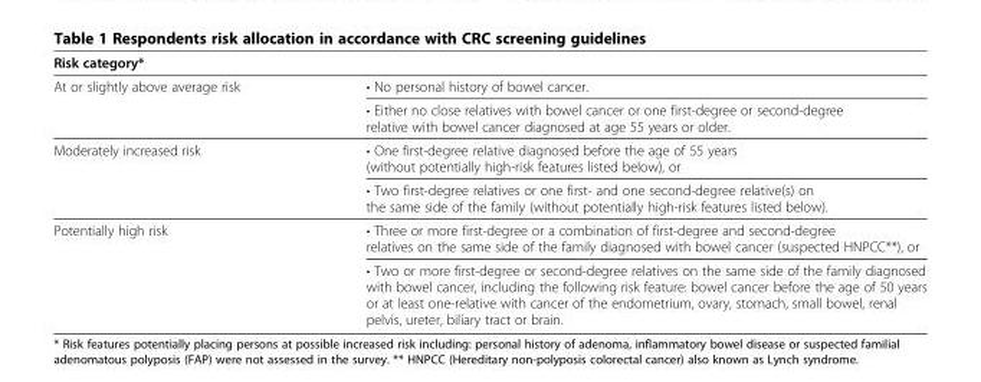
<table><thead><tr><td>Risk category*</td><td></td></tr></thead><tbody><tr><td rowspan="2">At or slightly above average risk</td><td>• No personal history of bowel cancer.</td></tr><tr><td>• Either no close relatives with bowel cancer or one first-degree or second-degree relative with bowel cancer diagnosed at age 55 years or older.</td></tr><tr><td rowspan="2">Moderately increased risk</td><td>• One first-degree relative diagnosed before the age of 55 years (without potentially high-risk features listed below), or</td></tr><tr><td>• Two first-degree relatives or one first- and one second-degree relative(s) on the same side of the family (without potentially high-risk features listed below).</td></tr><tr><td rowspan="2">Potentially high risk</td><td>• Three or more first-degree or a combination of first-degree and second-degree relatives on the same side of the family diagnosed with bowel cancer (suspected HNPCC**), or</td></tr><tr><td>• Two or more first-degree or second-degree relatives on the same side of the family diagnosed with bowel cancer, including the following risk feature: bowel cancer before the age of 50 years or at least one-relative with cancer of the endometrium, ovary, stomach, small bowel, renal pelvis, ureter, biliary tract or brain.</td></tr></tbody></table>